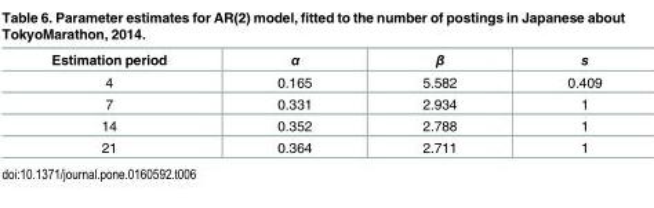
<table><thead><tr><td>Estimation period</td><td>α</td><td>β</td><td>s</td></tr></thead><tbody><tr><td>4</td><td>0.165</td><td>5.582</td><td>0.409</td></tr><tr><td>7</td><td>0.331</td><td>2.934</td><td>1</td></tr><tr><td>14</td><td>0.352</td><td>2.788</td><td>1</td></tr><tr><td>21</td><td>0.364</td><td>2.711</td><td>1</td></tr></tbody></table>